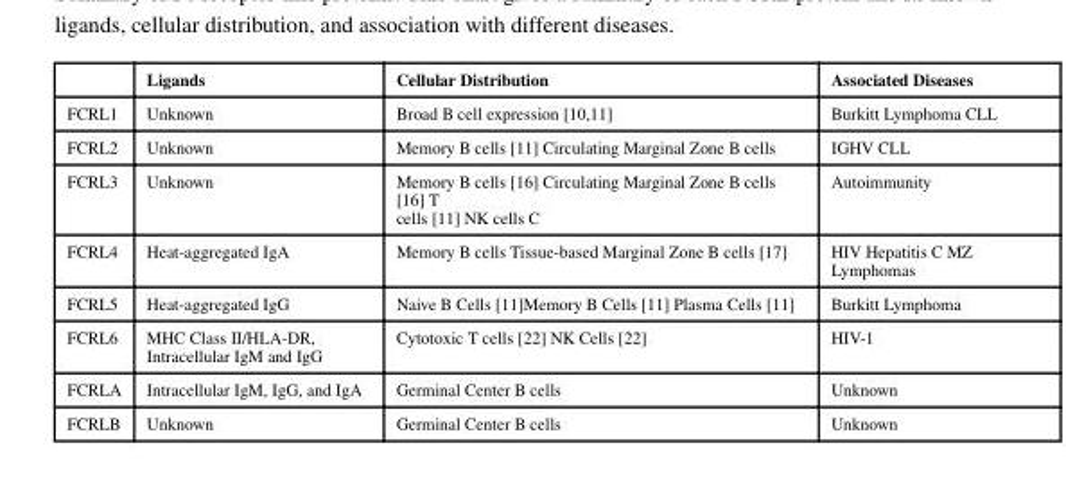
<table><thead><tr><td></td><td>Ligands</td><td>Cellular Distribution</td><td>Associated Diseases</td></tr></thead><tbody><tr><td>FCRL1</td><td>Unknown</td><td>Broad B cell expression [10,11]</td><td>Burkitt Lymphoma CLL</td></tr><tr><td>FCRL2</td><td>Unknown</td><td>Memory B cells [11] Circulating Marginal Zone B cells</td><td>IGHV CLL</td></tr><tr><td>FCRL3</td><td>Unknown</td><td>Memory B cells [16] Circulating Marginal Zone B cells [16] T cells [11] NK cells C</td><td>Autoimmunity</td></tr><tr><td>FCRL4</td><td>Heat-aggregated IgA</td><td>Memory B cells Tissue-based Marginal Zone B cells [17]</td><td>HIV Hepatitis C MZ Lymphomas</td></tr><tr><td>FCRL5</td><td>Heat-aggregated IgG</td><td>Naive B Cells [11]Memory B Cells [11] Plasma Cells [11]</td><td>Burkitt Lymphoma</td></tr><tr><td>FCRL6</td><td>MHC Class II/HLA-DR, Intracellular IgM and IgG</td><td>Cytotoxic T cells [22] NK Cells [22]</td><td>HIV-1</td></tr><tr><td>FCRLA</td><td>Intracellular IgM, IgG, and IgA</td><td>Germinal Center B cells</td><td>Unknown</td></tr><tr><td>FCRLB</td><td>Unknown</td><td>Germinal Center B cells</td><td>Unknown</td></tr></tbody></table>